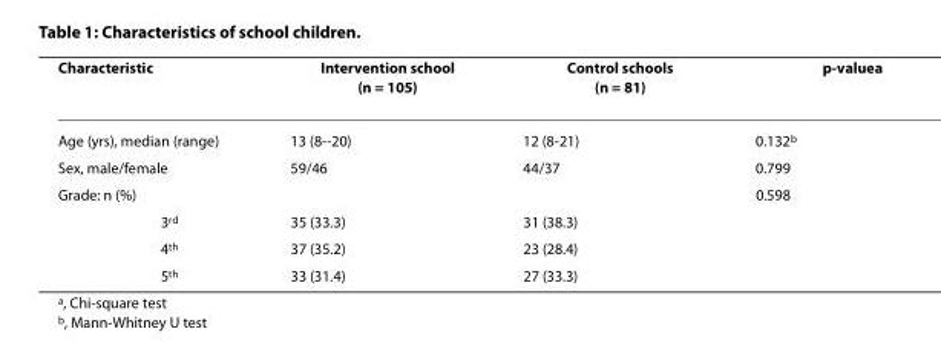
<table><thead><tr><td>Characteristic</td><td>Intervention school (n = 105)</td><td>Control schools (n = 81)</td><td>p-value<sup>a</sup></td></tr></thead><tbody><tr><td>Age (yrs), median (range)</td><td>13 (8--20)</td><td>12 (8-21)</td><td>0.132<sup>b</sup></td></tr><tr><td>Sex, male/female</td><td>59/46</td><td>44/37</td><td>0.799</td></tr><tr><td>Grade: n (%)</td><td></td><td></td><td>0.598</td></tr><tr><td>3<sup>rd</sup></td><td>35 (33.3)</td><td>31 (38.3)</td><td></td></tr><tr><td>4<sup>th</sup></td><td>37 (35.2)</td><td>23 (28.4)</td><td></td></tr><tr><td>5<sup>th</sup></td><td>33 (31.4)</td><td>27 (33.3)</td><td></td></tr></tbody></table>